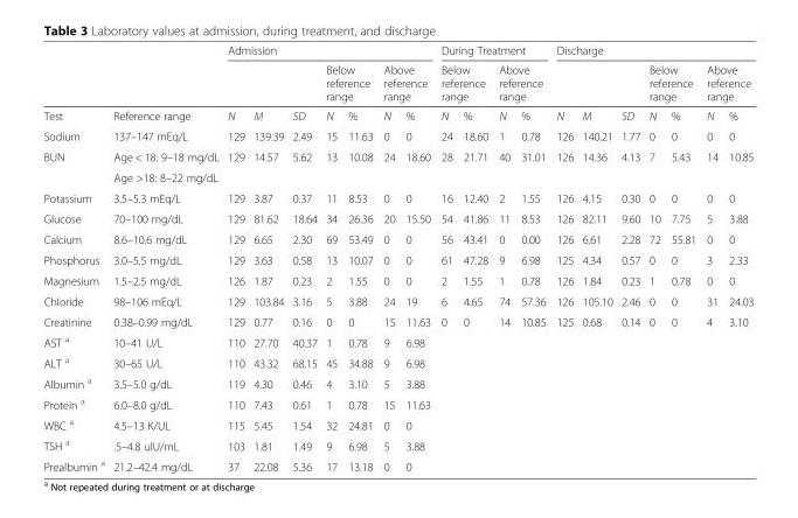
<table><thead><tr><td rowspan="3">Test</td><td rowspan="3">Reference range</td><td colspan="7">Admission</td><td colspan="4">During Treatment</td><td colspan="7">Discharge</td></tr><tr><td rowspan="2">N</td><td rowspan="2">M</td><td rowspan="2">SD</td><td colspan="2">Below reference range</td><td colspan="2">Above reference range</td><td colspan="2">Below reference range</td><td colspan="2">Above reference range</td><td rowspan="2">N</td><td rowspan="2">M</td><td rowspan="2">SD</td><td colspan="2">Below reference range</td><td colspan="2">Above reference range</td></tr><tr><td>N</td><td>%</td><td>N</td><td>%</td><td>N</td><td>%</td><td>N</td><td>%</td><td>N</td><td>%</td><td>N</td><td>%</td></tr></thead><tbody><tr><td>Sodium</td><td>137–147 mEq/L</td><td>129</td><td>139.39</td><td>2.49</td><td>15</td><td>11.63</td><td>0</td><td>0</td><td>24</td><td>18.60</td><td>1</td><td>0.78</td><td>126</td><td>140.21</td><td>1.77</td><td>0</td><td>0</td><td>0</td><td>0</td></tr><tr><td rowspan="2">BUN</td><td>Age &lt; 18: 9–18 mg/dL</td><td>129</td><td>14.57</td><td>5.62</td><td>13</td><td>10.08</td><td>24</td><td>18.60</td><td>28</td><td>21.71</td><td>40</td><td>31.01</td><td>126</td><td>14.36</td><td>4.13</td><td>7</td><td>5.43</td><td>14</td><td>10.85</td></tr><tr><td colspan="2">Age &gt;18: 8–22 mg/dL</td><td></td><td></td><td></td><td></td><td></td><td></td><td></td><td></td><td></td><td></td><td></td><td></td><td></td><td></td><td></td><td></td><td></td></tr><tr><td>Potassium</td><td>3.5–5.3 mEq/L</td><td>129</td><td>3.87</td><td>0.37</td><td>11</td><td>8.53</td><td>0</td><td>0</td><td>16</td><td>12.40</td><td>2</td><td>1.55</td><td>126</td><td>4.15</td><td>0.30</td><td>0</td><td>0</td><td>0</td><td>0</td></tr><tr><td>Glucose</td><td>70–100 mg/dL</td><td>129</td><td>81.62</td><td>18.64</td><td>34</td><td>26.36</td><td>20</td><td>15.50</td><td>54</td><td>41.86</td><td>11</td><td>8.53</td><td>126</td><td>82.11</td><td>9.60</td><td>10</td><td>7.75</td><td>5</td><td>3.88</td></tr><tr><td>Calcium</td><td>8.6–10.6 mg/dL</td><td>129</td><td>6.65</td><td>2.30</td><td>69</td><td>53.49</td><td>0</td><td>0</td><td>56</td><td>43.41</td><td>0</td><td>0.00</td><td>126</td><td>6.61</td><td>2.28</td><td>72</td><td>55.81</td><td>0</td><td>0</td></tr><tr><td>Phosphorus</td><td>3.0–5.5 mg/dL</td><td>129</td><td>3.63</td><td>0.58</td><td>13</td><td>10.07</td><td>0</td><td>0</td><td>61</td><td>47.28</td><td>9</td><td>6.98</td><td>125</td><td>4.34</td><td>0.57</td><td>0</td><td>0</td><td>3</td><td>2.33</td></tr><tr><td>Magnesium</td><td>1.5–2.5 mg/dL</td><td>126</td><td>1.87</td><td>0.23</td><td>2</td><td>1.55</td><td>0</td><td>0</td><td>2</td><td>1.55</td><td>1</td><td>0.78</td><td>126</td><td>1.84</td><td>0.23</td><td>1</td><td>0.78</td><td>0</td><td>0</td></tr><tr><td>Chloride</td><td>98–106 mEq/L</td><td>129</td><td>103.84</td><td>3.16</td><td>5</td><td>3.88</td><td>24</td><td>19</td><td>6</td><td>4.65</td><td>74</td><td>57.36</td><td>126</td><td>105.10</td><td>2.46</td><td>0</td><td>0</td><td>31</td><td>24.03</td></tr><tr><td>Creatinine</td><td>0.38–0.99 mg/dL</td><td>129</td><td>0.77</td><td>0.16</td><td>0</td><td>0</td><td>15</td><td>11.63</td><td>0</td><td>0</td><td>14</td><td>10.85</td><td>125</td><td>0.68</td><td>0.14</td><td>0</td><td>0</td><td>4</td><td>3.10</td></tr><tr><td>AST <sup>a</sup></td><td>10–41 U/L</td><td>110</td><td>27.70</td><td>40.37</td><td>1</td><td>0.78</td><td>9</td><td>6.98</td><td></td><td></td><td></td><td></td><td></td><td></td><td></td><td></td><td></td><td></td><td></td></tr><tr><td>ALT <sup>a</sup></td><td>30–65 U/L</td><td>110</td><td>43.32</td><td>68.15</td><td>45</td><td>34.88</td><td>9</td><td>6.98</td><td></td><td></td><td></td><td></td><td></td><td></td><td></td><td></td><td></td><td></td><td></td></tr><tr><td>Albumin <sup>a</sup></td><td>3.5–5.0 g/dL</td><td>119</td><td>4.30</td><td>0.46</td><td>4</td><td>3.10</td><td>5</td><td>3.88</td><td></td><td></td><td></td><td></td><td></td><td></td><td></td><td></td><td></td><td></td><td></td></tr><tr><td>Protein <sup>a</sup></td><td>6.0–8.0 g/dL</td><td>110</td><td>7.43</td><td>0.61</td><td>1</td><td>0.78</td><td>15</td><td>11.63</td><td></td><td></td><td></td><td></td><td></td><td></td><td></td><td></td><td></td><td></td><td></td></tr><tr><td>WBC <sup>a</sup></td><td>4.5–13 K/UL</td><td>115</td><td>5.45</td><td>1.54</td><td>32</td><td>24.81</td><td>0</td><td>0</td><td></td><td></td><td></td><td></td><td></td><td></td><td></td><td></td><td></td><td></td><td></td></tr><tr><td>TSH <sup>a</sup></td><td>.5–4.8 ulU/mL</td><td>103</td><td>1.81</td><td>1.49</td><td>9</td><td>6.98</td><td>5</td><td>3.88</td><td></td><td></td><td></td><td></td><td></td><td></td><td></td><td></td><td></td><td></td><td></td></tr><tr><td>Prealbumin <sup>a</sup></td><td>21.2–42.4 mg/dL</td><td>37</td><td>22.08</td><td>5.36</td><td>17</td><td>13.18</td><td>0</td><td>0</td><td></td><td></td><td></td><td></td><td></td><td></td><td></td><td></td><td></td><td></td><td></td></tr></tbody></table>